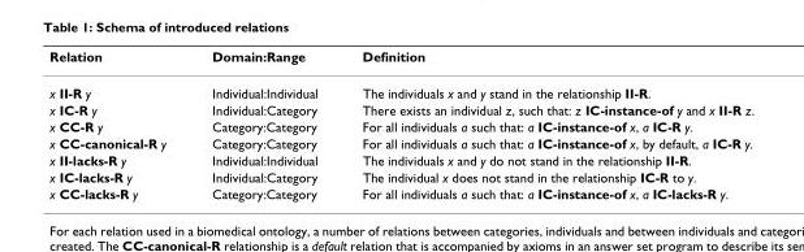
<table><thead><tr><td>Relation</td><td>Domain:Range</td><td>Definition</td></tr></thead><tbody><tr><td>x II-R y</td><td>Individual:Individual</td><td>The individuals x and y stand in the relationship II-R.</td></tr><tr><td>x IC-R y</td><td>Individual:Category</td><td>There exists an individual z, such that: z IC-instance-of y and x II-R z.</td></tr><tr><td>x CC-R y</td><td>Category:Category</td><td>For all individuals a such that: a IC-instance-of x, a IC-R y.</td></tr><tr><td>x CC-canonical-R y</td><td>Category:Category</td><td>For all individuals a such that: a IC-instance-of x, by default, a IC-R y.</td></tr><tr><td>x II-lacks-R y</td><td>Individual:Individual</td><td>The individuals x and y do not stand in the relationship II-R.</td></tr><tr><td>x IC-lacks-R y</td><td>Individual:Category</td><td>The individual x does not stand in the relationship IC-R to y.</td></tr><tr><td>x CC-lacks-R y</td><td>Category:Category</td><td>For all individuals a such that: a IC-instance-of x, a IC-lacks-R y.</td></tr></tbody></table>